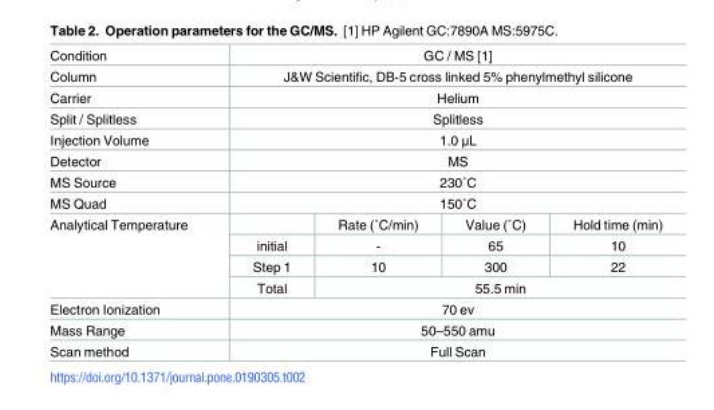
<table><tbody><tr><td>Condition</td><td colspan="4">GC / MS [1]</td></tr><tr><td>Column</td><td colspan="4">J&amp;W Scientific, DB-5 cross linked 5% phenylmethyl silicone</td></tr><tr><td>Carrier</td><td colspan="4">Helium</td></tr><tr><td>Split / Splitless</td><td colspan="4">Splitless</td></tr><tr><td>Injection Volume</td><td colspan="4">1.0 μL</td></tr><tr><td>Detector</td><td colspan="4">MS</td></tr><tr><td>MS Source</td><td colspan="4">230˚C</td></tr><tr><td>MS Quad</td><td colspan="4">150˚C</td></tr><tr><td rowspan="4">Analytical Temperature</td><td></td><td>Rate (˚C/min)</td><td>Value (˚C)</td><td>Hold time (min)</td></tr><tr><td>initial</td><td>-</td><td>65</td><td>10</td></tr><tr><td>Step 1</td><td>10</td><td>300</td><td>22</td></tr><tr><td>Total</td><td colspan="3">55.5 min</td></tr><tr><td>Electron Ionization</td><td colspan="4">70 ev</td></tr><tr><td>Mass Range</td><td colspan="4">50–550 amu</td></tr><tr><td>Scan method</td><td colspan="4">Full Scan</td></tr></tbody></table>